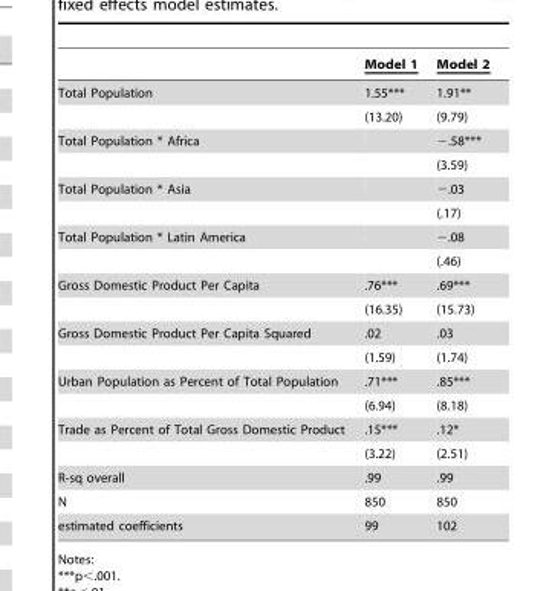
<table><thead><tr><td></td><td>Model 1</td><td>Model 2</td></tr></thead><tbody><tr><td rowspan="2">Total Population</td><td>1.55***</td><td>1.91**</td></tr><tr><td>(13.20)</td><td>(9.79)</td></tr><tr><td rowspan="2">Total Population * Africa</td><td></td><td>−.58***</td></tr><tr><td></td><td>(3.59)</td></tr><tr><td rowspan="2">Total Population * Asia</td><td></td><td>−.03</td></tr><tr><td></td><td>(.17)</td></tr><tr><td rowspan="2">Total Population * Latin America</td><td></td><td>−.08</td></tr><tr><td></td><td>(.46)</td></tr><tr><td rowspan="2">Gross Domestic Product Per Capita</td><td>.76***</td><td>.69***</td></tr><tr><td>(16.35)</td><td>(15.73)</td></tr><tr><td rowspan="2">Gross Domestic Product Per Capita Squared</td><td>.02</td><td>.03</td></tr><tr><td>(1.59)</td><td>(1.74)</td></tr><tr><td rowspan="2">Urban Population as Percent of Total Population</td><td>.71***</td><td>.85***</td></tr><tr><td>(6.94)</td><td>(8.18)</td></tr><tr><td rowspan="2">Trade as Percent of Total Gross Domestic Product</td><td>.15***</td><td>.12*</td></tr><tr><td>(3.22)</td><td>(2.51)</td></tr><tr><td>R-sq overall</td><td>.99</td><td>.99</td></tr><tr><td>N</td><td>850</td><td>850</td></tr><tr><td>estimated coefficients</td><td>99</td><td>102</td></tr></tbody></table>